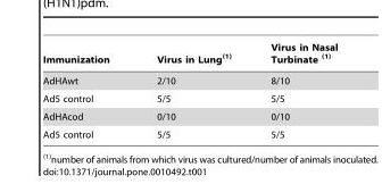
<table><thead><tr><td>Immunization</td><td>Virus in Lung(1)</td><td>Virus in Nasal Turbinate (1)</td></tr></thead><tbody><tr><td>AdHAwt</td><td>2/10</td><td>8/10</td></tr><tr><td>Ad5 control</td><td>5/5</td><td>5/5</td></tr><tr><td>AdHAcod</td><td>0/10</td><td>0/10</td></tr><tr><td>Ad5 control</td><td>5/5</td><td>5/5</td></tr></tbody></table>